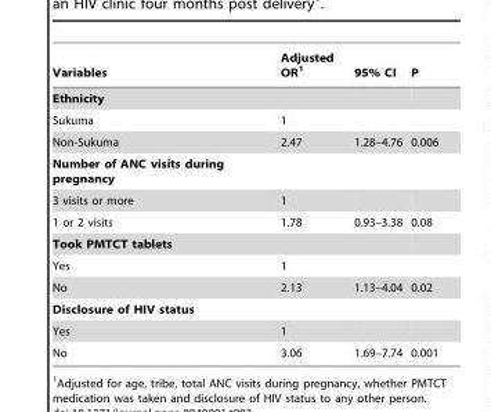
<table><thead><tr><td>Variables</td><td>Adjusted OR<sup>1</sup></td><td>95% CI</td><td>P</td></tr></thead><tbody><tr><td colspan="4">Ethnicity</td></tr><tr><td>Sukuma</td><td>1</td><td></td><td></td></tr><tr><td>Non-Sukuma</td><td>2.47</td><td>1.28–4.76</td><td>0.006</td></tr><tr><td colspan="4">Number of ANC visits during pregnancy</td></tr><tr><td>3 visits or more</td><td>1</td><td></td><td></td></tr><tr><td>1 or 2 visits</td><td>1.78</td><td>0.93–3.38</td><td>0.08</td></tr><tr><td colspan="4">Took PMTCT tablets</td></tr><tr><td>Yes</td><td>1</td><td></td><td></td></tr><tr><td>No</td><td>2.13</td><td>1.13–4.04</td><td>0.02</td></tr><tr><td colspan="4">Disclosure of HIV status</td></tr><tr><td>Yes</td><td>1</td><td></td><td></td></tr><tr><td>No</td><td>3.06</td><td>1.69–7.74</td><td>0.001</td></tr></tbody></table>